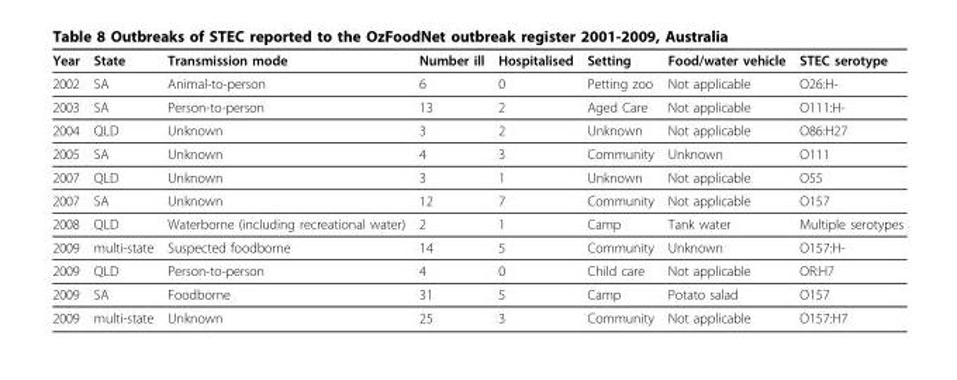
<table><thead><tr><td>Year</td><td>State</td><td>Transmission mode</td><td>Number ill</td><td>Hospitalised</td><td>Setting</td><td>Food/water vehicle</td><td>STEC serotype</td></tr></thead><tbody><tr><td>2002</td><td>SA</td><td>Animal-to-person</td><td>6</td><td>0</td><td>Petting zoo</td><td>Not applicable</td><td>O26:H-</td></tr><tr><td>2003</td><td>SA</td><td>Person-to-person</td><td>13</td><td>2</td><td>Aged Care</td><td>Not applicable</td><td>O111:H-</td></tr><tr><td>2004</td><td>QLD</td><td>Unknown</td><td>3</td><td>2</td><td>Unknown</td><td>Not applicable</td><td>O86:H27</td></tr><tr><td>2005</td><td>SA</td><td>Unknown</td><td>4</td><td>3</td><td>Community</td><td>Unknown</td><td>O111</td></tr><tr><td>2007</td><td>QLD</td><td>Unknown</td><td>3</td><td>1</td><td>Unknown</td><td>Not applicable</td><td>O55</td></tr><tr><td>2007</td><td>SA</td><td>Unknown</td><td>12</td><td>7</td><td>Community</td><td>Not applicable</td><td>O157</td></tr><tr><td>2008</td><td>QLD</td><td>Waterborne (including recreational water)</td><td>2</td><td>1</td><td>Camp</td><td>Tank water</td><td>Multiple serotypes</td></tr><tr><td>2009</td><td>multi-state</td><td>Suspected foodborne</td><td>14</td><td>5</td><td>Community</td><td>Unknown</td><td>O157:H-</td></tr><tr><td>2009</td><td>QLD</td><td>Person-to-person</td><td>4</td><td>0</td><td>Child care</td><td>Not applicable</td><td>OR:H7</td></tr><tr><td>2009</td><td>SA</td><td>Foodborne</td><td>31</td><td>5</td><td>Camp</td><td>Potato salad</td><td>O157</td></tr><tr><td>2009</td><td>multi-state</td><td>Unknown</td><td>25</td><td>3</td><td>Community</td><td>Not applicable</td><td>O157:H7</td></tr></tbody></table>